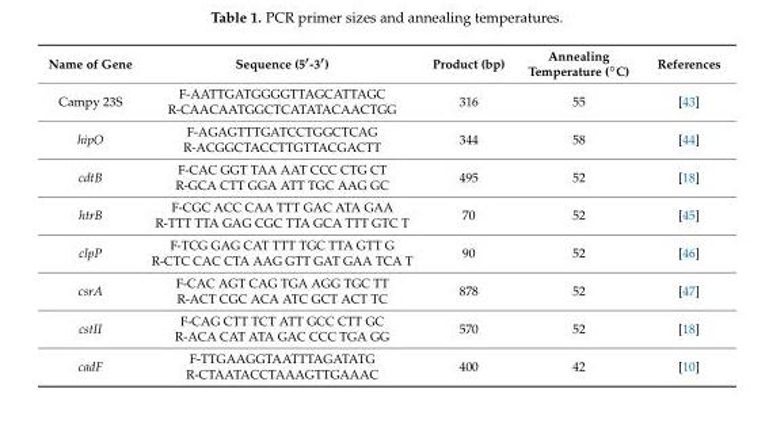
<table><thead><tr><td>Name of Gene</td><td>Sequence (5′-3′)</td><td>Product (bp)</td><td>Annealing Temperature (◦C)</td><td>References</td></tr></thead><tbody><tr><td>Campy 23S</td><td>F-AATTGATGGGGTTAGCATTAGC R-CAACAATGGCTCATATACAACTGG</td><td>316</td><td>55</td><td>[43]</td></tr><tr><td>hipO</td><td>F-AGAGTTTGATCCTGGCTCAG R-ACGGCTACCTTGTTACGACTT</td><td>344</td><td>58</td><td>[44]</td></tr><tr><td>cdtB</td><td>F-CAC GGT TAA AAT CCC CTG CT R-GCA CTT GGA ATT TGC AAG GC</td><td>495</td><td>52</td><td>[18]</td></tr><tr><td>htrB</td><td>F-CGC ACC CAA TTT GAC ATA GAA R-TTT TTA GAG CGC TTA GCA TTT GTC T</td><td>70</td><td>52</td><td>[45]</td></tr><tr><td>clpP</td><td>F-TCG GAG CAT TTT TGC TTA GTT G R-CTC CAC CTA AAG GTT GAT GAA TCA T</td><td>90</td><td>52</td><td>[46]</td></tr><tr><td>csrA</td><td>F-CAC AGT CAG TGA AGG TGC TT R-ACT CGC ACA ATC GCT ACT TC</td><td>878</td><td>52</td><td>[47]</td></tr><tr><td>cstII</td><td>F-CAG CTT TCT ATT GCC CTT GC R-ACA CAT ATA GAC CCC TGA GG</td><td>570</td><td>52</td><td>[18]</td></tr><tr><td>cadF</td><td>F-TTGAAGGTAATTTAGATATG R-CTAATACCTAAAGTTGAAAC</td><td>400</td><td>42</td><td>[10]</td></tr></tbody></table>